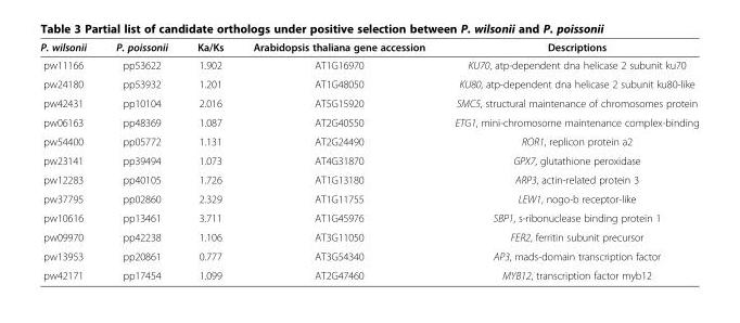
<table><thead><tr><td>P. wilsonii</td><td>P. poissonii</td><td>Ka/Ks</td><td>Arabidopsis thaliana gene accession</td><td>Descriptions</td></tr></thead><tbody><tr><td>pw11166</td><td>pp53622</td><td>1.902</td><td>AT1G16970</td><td>KU70, atp-dependent dna helicase 2 subunit ku70</td></tr><tr><td>pw24180</td><td>pp53932</td><td>1.201</td><td>AT1G48050</td><td>KU80, atp-dependent dna helicase 2 subunit ku80-like</td></tr><tr><td>pw42431</td><td>pp10104</td><td>2.016</td><td>AT5G15920</td><td>SMC5, structural maintenance of chromosomes protein</td></tr><tr><td>pw06163</td><td>pp48369</td><td>1.087</td><td>AT2G40550</td><td>ETG1, mini-chromosome maintenance complex-binding</td></tr><tr><td>pw54400</td><td>pp05772</td><td>1.131</td><td>AT2G24490</td><td>ROR1, replicon protein a2</td></tr><tr><td>pw23141</td><td>pp39494</td><td>1.073</td><td>AT4G31870</td><td>GPX7, glutathione peroxidase</td></tr><tr><td>pw12283</td><td>pp40105</td><td>1.726</td><td>AT1G13180</td><td>ARP3, actin-related protein 3</td></tr><tr><td>pw37795</td><td>pp02860</td><td>2.329</td><td>AT1G11755</td><td>LEW1, nogo-b receptor-like</td></tr><tr><td>pw10616</td><td>pp13461</td><td>3.711</td><td>AT1G45976</td><td>SBP1, s-ribonuclease binding protein 1</td></tr><tr><td>pw09970</td><td>pp42238</td><td>1.106</td><td>AT3G11050</td><td>FER2, ferritin subunit precursor</td></tr><tr><td>pw13953</td><td>pp20861</td><td>0.777</td><td>AT3G54340</td><td>AP3, mads-domain transcription factor</td></tr><tr><td>pw42171</td><td>pp17454</td><td>1.099</td><td>AT2G47460</td><td>MYB12, transcription factor myb12</td></tr></tbody></table>